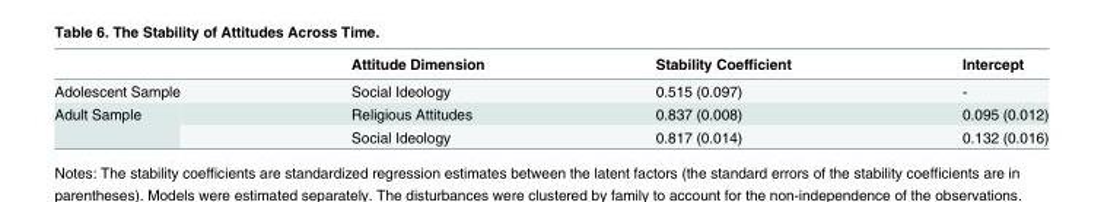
<table><thead><tr><td></td><td>Attitude Dimension</td><td>Stability Coefficient</td><td>Intercept</td></tr></thead><tbody><tr><td>Adolescent Sample</td><td>Social Ideology</td><td>0.515 (0.097)</td><td>-</td></tr><tr><td rowspan="2">Adult Sample</td><td>Religious Attitudes</td><td>0.837 (0.008)</td><td>0.095 (0.012)</td></tr><tr><td>Social Ideology</td><td>0.817 (0.014)</td><td>0.132 (0.016)</td></tr></tbody></table>